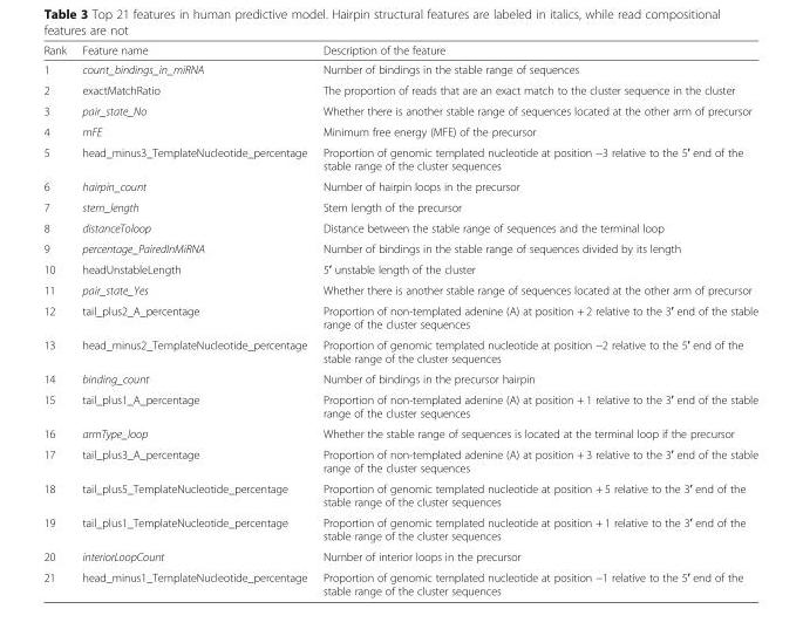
<table><thead><tr><td>Rank</td><td>Feature name</td><td>Description of the feature</td></tr></thead><tbody><tr><td>1</td><td>count_bindings_in_miRNA</td><td>Number of bindings in the stable range of sequences</td></tr><tr><td>2</td><td>exactMatchRatio</td><td>The proportion of reads that are an exact match to the cluster sequence in the cluster</td></tr><tr><td>3</td><td>pair_state_No</td><td>Whether there is another stable range of sequences located at the other arm of precursor</td></tr><tr><td>4</td><td>mFE</td><td>Minimum free energy (MFE) of the precursor</td></tr><tr><td>5</td><td>head_minus3_TemplateNucleotide_percentage</td><td>Proportion of genomic templated nucleotide at position −3 relative to the 5′ end of the stable range of the cluster sequences</td></tr><tr><td>6</td><td>hairpin_count</td><td>Number of hairpin loops in the precursor</td></tr><tr><td>7</td><td>stem_length</td><td>Stem length of the precursor</td></tr><tr><td>8</td><td>distanceToloop</td><td>Distance between the stable range of sequences and the terminal loop</td></tr><tr><td>9</td><td>percentage_PairedInMiRNA</td><td>Number of bindings in the stable range of sequences divided by its length</td></tr><tr><td>10</td><td>headUnstableLength</td><td>5′ unstable length of the cluster</td></tr><tr><td>11</td><td>pair_state_Yes</td><td>Whether there is another stable range of sequences located at the other arm of precursor</td></tr><tr><td>12</td><td>tail_plus2_A_percentage</td><td>Proportion of non-templated adenine (A) at position + 2 relative to the 3′ end of the stable range of the cluster sequences</td></tr><tr><td>13</td><td>head_minus2_TemplateNucleotide_percentage</td><td>Proportion of genomic templated nucleotide at position −2 relative to the 5′ end of the stable range of the cluster sequences</td></tr><tr><td>14</td><td>binding_count</td><td>Number of bindings in the precursor hairpin</td></tr><tr><td>15</td><td>tail_plus1_A_percentage</td><td>Proportion of non-templated adenine (A) at position + 1 relative to the 3′ end of the stable range of the cluster sequences</td></tr><tr><td>16</td><td>armType_loop</td><td>Whether the stable range of sequences is located at the terminal loop if the precursor</td></tr><tr><td>17</td><td>tail_plus3_A_percentage</td><td>Proportion of non-templated adenine (A) at position + 3 relative to the 3′ end of the stable range of the cluster sequences</td></tr><tr><td>18</td><td>tail_plus5_TemplateNucleotide_percentage</td><td>Proportion of genomic templated nucleotide at position + 5 relative to the 3′ end of the stable range of the cluster sequences</td></tr><tr><td>19</td><td>tail_plus1_TemplateNucleotide_percentage</td><td>Proportion of genomic templated nucleotide at position + 1 relative to the 3′ end of the stable range of the cluster sequences</td></tr><tr><td>20</td><td>interiorLoopCount</td><td>Number of interior loops in the precursor</td></tr><tr><td>21</td><td>head_minus1_TemplateNucleotide_percentage</td><td>Proportion of genomic templated nucleotide at position −1 relative to the 5′ end of the stable range of the cluster sequences</td></tr></tbody></table>